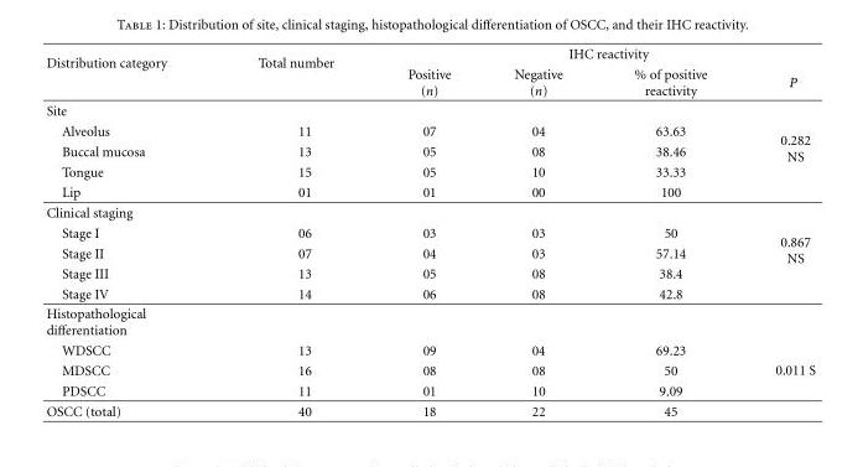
<table><thead><tr><td rowspan="2">Distribution category</td><td rowspan="2">Total number</td><td colspan="4">IHC reactivity</td></tr><tr><td>Positive (n)</td><td>Negative (n)</td><td>% of positive reactivity</td><td>P</td></tr></thead><tbody><tr><td colspan="5">Site</td><td rowspan="5">0.282 NS</td></tr><tr><td>Alveolus</td><td>11</td><td>07</td><td>04</td><td>63.63</td></tr><tr><td>Buccal mucosa</td><td>13</td><td>05</td><td>08</td><td>38.46</td></tr><tr><td>Tongue</td><td>15</td><td>05</td><td>10</td><td>33.33</td></tr><tr><td>Lip</td><td>01</td><td>01</td><td>00</td><td>100</td></tr><tr><td colspan="5">Clinical staging</td><td rowspan="5">0.867 NS</td></tr><tr><td>Stage I</td><td>06</td><td>03</td><td>03</td><td>50</td></tr><tr><td>Stage II</td><td>07</td><td>04</td><td>03</td><td>57.14</td></tr><tr><td>Stage III</td><td>13</td><td>05</td><td>08</td><td>38.4</td></tr><tr><td>Stage IV</td><td>14</td><td>06</td><td>08</td><td>42.8</td></tr><tr><td colspan="6">Histopathological differentiation</td></tr><tr><td>WDSCC</td><td>13</td><td>09</td><td>04</td><td>69.23</td><td rowspan="3">0.011 S</td></tr><tr><td>MDSCC</td><td>16</td><td>08</td><td>08</td><td>50</td></tr><tr><td>PDSCC</td><td>11</td><td>01</td><td>10</td><td>9.09</td></tr><tr><td>OSCC (total)</td><td>40</td><td>18</td><td>22</td><td>45</td><td></td></tr></tbody></table>